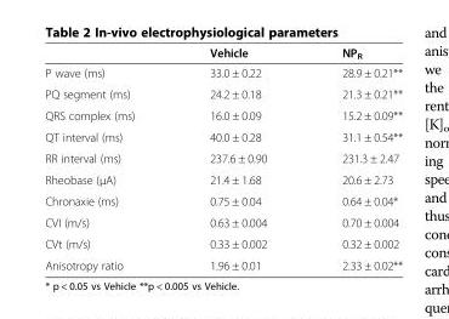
<table><thead><tr><td></td><td>Vehicle</td><td>NP<sub>R</sub></td></tr></thead><tbody><tr><td>P wave (ms)</td><td>33.0 ± 0.22</td><td>28.9 ± 0.21**</td></tr><tr><td>PQ segment (ms)</td><td>24.2 ± 0.18</td><td>21.3 ± 0.21**</td></tr><tr><td>QRS complex (ms)</td><td>16.0 ± 0.09</td><td>15.2 ± 0.09**</td></tr><tr><td>QT interval (ms)</td><td>40.0 ± 0.28</td><td>31.1 ± 0.54**</td></tr><tr><td>RR interval (ms)</td><td>237.6 ± 0.90</td><td>231.3 ± 2.47</td></tr><tr><td>Rheobase (μA)</td><td>21.4 ± 1.68</td><td>20.6 ± 2.73</td></tr><tr><td>Chronaxie (ms)</td><td>0.75 ± 0.04</td><td>0.64 ± 0.04*</td></tr><tr><td>CVI (m/s)</td><td>0.63 ± 0.004</td><td>0.70 ± 0.004</td></tr><tr><td>CVt (m/s)</td><td>0.33 ± 0.002</td><td>0.32 ± 0.002</td></tr><tr><td>Anisotropy ratio</td><td>1.96 ± 0.01</td><td>2.33 ± 0.02**</td></tr></tbody></table>